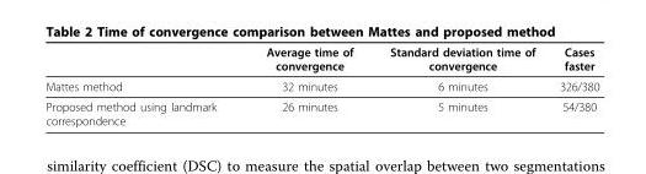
<table><thead><tr><td></td><td>Average time of convergence</td><td>Standard deviation time of convergence</td><td>Cases faster</td></tr></thead><tbody><tr><td>Mattes method</td><td>32 minutes</td><td>6 minutes</td><td>326/380</td></tr><tr><td>Proposed method using landmark correspondence</td><td>26 minutes</td><td>5 minutes</td><td>54/380</td></tr></tbody></table>